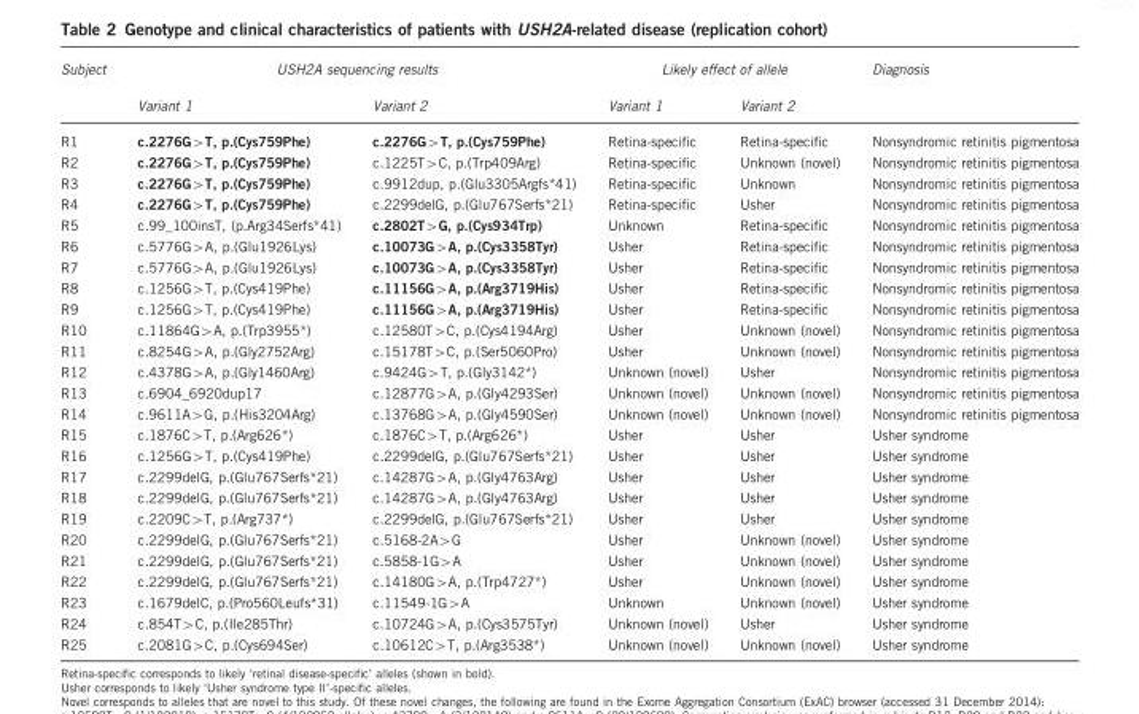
<table><thead><tr><td rowspan="2">Subject</td><td colspan="2">USH2A sequencing results</td><td colspan="2">Likely effect of allele</td><td rowspan="2">Diagnosis</td></tr><tr><td>Variant 1</td><td>Variant 2</td><td>Variant 1</td><td>Variant 2</td></tr></thead><tbody><tr><td>R1</td><td>c.2276G&gt;T, p.(Cys759Phe)</td><td>c.2276G&gt;T, p.(Cys759Phe)</td><td>Retina-specific</td><td>Retina-specific</td><td>Nonsyndromic retinitis pigmentosa</td></tr><tr><td>R2</td><td>c.2276G&gt;T, p.(Cys759Phe)</td><td>c.1225T&gt;C, p.(Trp409Arg)</td><td>Retina-specific</td><td>Unknown (novel)</td><td>Nonsyndromic retinitis pigmentosa</td></tr><tr><td>R3</td><td>c.2276G&gt;T, p.(Cys759Phe)</td><td>c.9912dup, p.(Glu3305Argfs*41)</td><td>Retina-specific</td><td>Unknown</td><td>Nonsyndromic retinitis pigmentosa</td></tr><tr><td>R4</td><td>c.2276G&gt;T, p.(Cys759Phe)</td><td>c.2299delG, p.(Glu767Serfs*21)</td><td>Retina-specific</td><td>Usher</td><td>Nonsyndromic retinitis pigmentosa</td></tr><tr><td>R5</td><td>c.99_100insT, (p.Arg34Serfs*41)</td><td>c.2802T&gt;G, p.(Cys934Trp)</td><td>Unknown</td><td>Retina-specific</td><td>Nonsyndromic retinitis pigmentosa</td></tr><tr><td>R6</td><td>c.5776G&gt;A, p.(Glu1926Lys)</td><td>c.10073G&gt;A, p.(Cys3358Tyr)</td><td>Usher</td><td>Retina-specific</td><td>Nonsyndromic retinitis pigmentosa</td></tr><tr><td>R7</td><td>c.5776G&gt;A, p.(Glu1926Lys)</td><td>c.10073G&gt;A, p.(Cys3358Tyr)</td><td>Usher</td><td>Retina-specific</td><td>Nonsyndromic retinitis pigmentosa</td></tr><tr><td>R8</td><td>c.1256G&gt;T, p.(Cys419Phe)</td><td>c.11156G&gt;A, p.(Arg3719His)</td><td>Usher</td><td>Retina-specific</td><td>Nonsyndromic retinitis pigmentosa</td></tr><tr><td>R9</td><td>c.1256G&gt;T, p.(Cys419Phe)</td><td>c.11156G&gt;A, p.(Arg3719His)</td><td>Usher</td><td>Retina-specific</td><td>Nonsyndromic retinitis pigmentosa</td></tr><tr><td>R10</td><td>c.11864G&gt;A, p.(Trp3955*)</td><td>c.12580T&gt;C, p.(Cys4194Arg)</td><td>Usher</td><td>Unknown (novel)</td><td>Nonsyndromic retinitis pigmentosa</td></tr><tr><td>R11</td><td>c.8254G&gt;A, p.(Gly2752Arg)</td><td>c.15178T&gt;C, p.(Ser5060Pro)</td><td>Usher</td><td>Unknown (novel)</td><td>Nonsyndromic retinitis pigmentosa</td></tr><tr><td>R12</td><td>c.4378G&gt;A, p.(Gly1460Arg)</td><td>c.9424G&gt;T, p.(Gly3142*)</td><td>Unknown (novel)</td><td>Usher</td><td>Nonsyndromic retinitis pigmentosa</td></tr><tr><td>R13</td><td>c.6904_6920dup17</td><td>c.12877G&gt;A, p.(Gly4293Ser)</td><td>Unknown (novel)</td><td>Unknown (novel)</td><td>Nonsyndromic retinitis pigmentosa</td></tr><tr><td>R14</td><td>c.9611A&gt;G, p.(His3204Arg)</td><td>c.13768G&gt;A, p.(Gly4590Ser)</td><td>Unknown (novel)</td><td>Unknown (novel)</td><td>Nonsyndromic retinitis pigmentosa</td></tr><tr><td>R15</td><td>c.1876C&gt;T, p.(Arg626*)</td><td>c.1876C&gt;T, p.(Arg626*)</td><td>Usher</td><td>Usher</td><td>Usher syndrome</td></tr><tr><td>R16</td><td>c.1256G&gt;T, p.(Cys419Phe)</td><td>c.2299delG, p.(Glu767Serfs*21)</td><td>Usher</td><td>Usher</td><td>Usher syndrome</td></tr><tr><td>R17</td><td>c.2299delG, p.(Glu767Serfs*21)</td><td>c.14287G&gt;A, p.(Gly4763Arg)</td><td>Usher</td><td>Usher</td><td>Usher syndrome</td></tr><tr><td>R18</td><td>c.2299delG, p.(Glu767Serfs*21)</td><td>c.14287G&gt;A, p.(Gly4763Arg)</td><td>Usher</td><td>Usher</td><td>Usher syndrome</td></tr><tr><td>R19</td><td>c.2209C&gt;T, p.(Arg737*)</td><td>c.2299delG, p.(Glu767Serfs*21)</td><td>Usher</td><td>Usher</td><td>Usher syndrome</td></tr><tr><td>R20</td><td>c.2299delG, p.(Glu767Serfs*21)</td><td>c.5168-2A&gt;G</td><td>Usher</td><td>Unknown (novel)</td><td>Usher syndrome</td></tr><tr><td>R21</td><td>c.2299delG, p.(Glu767Serfs*21)</td><td>c.5858-1G&gt;A</td><td>Usher</td><td>Unknown (novel)</td><td>Usher syndrome</td></tr><tr><td>R22</td><td>c.2299delG, p.(Glu767Serfs*21)</td><td>c.14180G&gt;A, p.(Trp4727*)</td><td>Usher</td><td>Unknown (novel)</td><td>Usher syndrome</td></tr><tr><td>R23</td><td>c.1679delC, p.(Pro560Leufs*31)</td><td>c.11549-1G&gt;A</td><td>Unknown</td><td>Unknown (novel)</td><td>Usher syndrome</td></tr><tr><td>R24</td><td>c.854T&gt;C, p.(Ile285Thr)</td><td>c.10724G&gt;A, p.(Cys3575Tyr)</td><td>Unknown (novel)</td><td>Usher</td><td>Usher syndrome</td></tr><tr><td>R25</td><td>c.2081G&gt;C, p.(Cys694Ser)</td><td>c.10612C&gt;T, p.(Arg3538*)</td><td>Unknown (novel)</td><td>Unknown (novel)</td><td>Usher syndrome</td></tr></tbody></table>